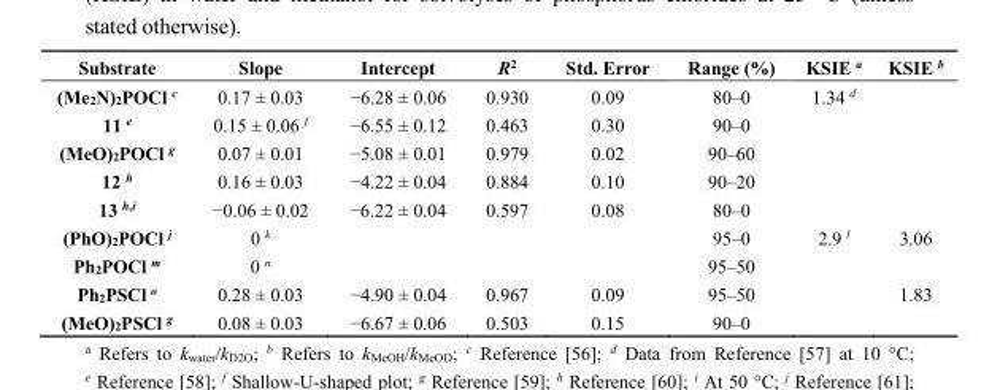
<table><thead><tr><td>Substrate</td><td>Slope</td><td>Intercept</td><td>R<sup>2</sup></td><td>Std. Error</td><td>Range (%)</td><td>KSIE <sup>a</sup></td><td>KSIE <sup>b</sup></td></tr></thead><tbody><tr><td>(Me<sub>2</sub>N)<sub>2</sub>POCl <sup>c</sup></td><td>0.17 ± 0.03</td><td>−6.28 ± 0.06</td><td>0.930</td><td>0.09</td><td>80–0</td><td>1.34 <sup>d</sup></td><td></td></tr><tr><td>11 <sup>e</sup></td><td>0.15 ± 0.06 <sup>f</sup></td><td>−6.55 ± 0.12</td><td>0.463</td><td>0.30</td><td>90–0</td><td></td><td></td></tr><tr><td>(MeO)<sub>2</sub>POCl <sup>g</sup></td><td>0.07 ± 0.01</td><td>−5.08 ± 0.01</td><td>0.979</td><td>0.02</td><td>90–60</td><td></td><td></td></tr><tr><td>12 <sup>h</sup></td><td>0.16 ± 0.03</td><td>−4.22 ± 0.04</td><td>0.884</td><td>0.10</td><td>90–20</td><td></td><td></td></tr><tr><td>13 <sup>h,i</sup></td><td>−0.06 ± 0.02</td><td>−6.22 ± 0.04</td><td>0.597</td><td>0.08</td><td>80–0</td><td></td><td></td></tr><tr><td>(PhO)<sub>2</sub>POCl <sup>j</sup></td><td>0 <sup>k</sup></td><td></td><td></td><td></td><td>95–0</td><td>2.9 <sup>l</sup></td><td>3.06</td></tr><tr><td>Ph<sub>2</sub>POCl <sup>m</sup></td><td>0 <sup>n</sup></td><td></td><td></td><td></td><td>95–50</td><td></td><td></td></tr><tr><td>Ph<sub>2</sub>PSCl <sup>o</sup></td><td>0.28 ± 0.03</td><td>−4.90 ± 0.04</td><td>0.967</td><td>0.09</td><td>95–50</td><td></td><td>1.83</td></tr><tr><td>(MeO)<sub>2</sub>PSCl <sup>g</sup></td><td>0.08 ± 0.03</td><td>−6.67 ± 0.06</td><td>0.503</td><td>0.15</td><td>90–0</td><td></td><td></td></tr></tbody></table>